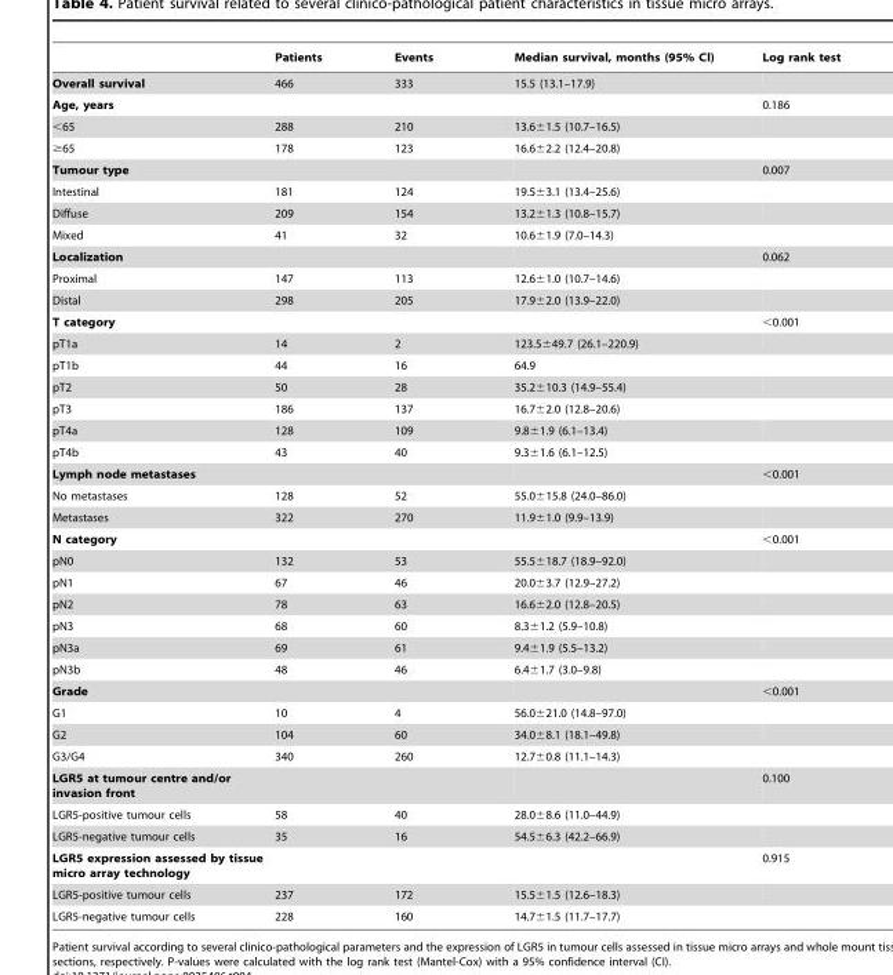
<table><thead><tr><td></td><td>Patients</td><td>Events</td><td>Median survival, months (95% Cl)</td><td>Log rank test</td></tr></thead><tbody><tr><td>Overall survival</td><td>466</td><td>333</td><td>15.5 (13.1–17.9)</td><td></td></tr><tr><td>Age, years</td><td></td><td></td><td></td><td>0.186</td></tr><tr><td>&lt;65</td><td>288</td><td>210</td><td>13.6±1.5 (10.7–16.5)</td><td></td></tr><tr><td>≥65</td><td>178</td><td>123</td><td>16.6±2.2 (12.4–20.8)</td><td></td></tr><tr><td>Tumour type</td><td></td><td></td><td></td><td>0.007</td></tr><tr><td>Intestinal</td><td>181</td><td>124</td><td>19.5±3.1 (13.4–25.6)</td><td></td></tr><tr><td>Diffuse</td><td>209</td><td>154</td><td>13.2±1.3 (10.8–15.7)</td><td></td></tr><tr><td>Mixed</td><td>41</td><td>32</td><td>10.6±1.9 (7.0–14.3)</td><td></td></tr><tr><td>Localization</td><td></td><td></td><td></td><td>0.062</td></tr><tr><td>Proximal</td><td>147</td><td>113</td><td>12.6±1.0 (10.7–14.6)</td><td></td></tr><tr><td>Distal</td><td>298</td><td>205</td><td>17.9±2.0 (13.9–22.0)</td><td></td></tr><tr><td>T category</td><td></td><td></td><td></td><td>&lt;0.001</td></tr><tr><td>pT1a</td><td>14</td><td>2</td><td>123.5±49.7 (26.1–220.9)</td><td></td></tr><tr><td>pT1b</td><td>44</td><td>16</td><td>64.9</td><td></td></tr><tr><td>pT2</td><td>50</td><td>28</td><td>35.2±10.3 (14.9–55.4)</td><td></td></tr><tr><td>pT3</td><td>186</td><td>137</td><td>16.7±2.0 (12.8–20.6)</td><td></td></tr><tr><td>pT4a</td><td>128</td><td>109</td><td>9.8±1.9 (6.1–13.4)</td><td></td></tr><tr><td>pT4b</td><td>43</td><td>40</td><td>9.3±1.6 (6.1–12.5)</td><td></td></tr><tr><td>Lymph node metastases</td><td></td><td></td><td></td><td>&lt;0.001</td></tr><tr><td>No metastases</td><td>128</td><td>52</td><td>55.0±15.8 (24.0–86.0)</td><td></td></tr><tr><td>Metastases</td><td>322</td><td>270</td><td>11.9±1.0 (9.9–13.9)</td><td></td></tr><tr><td>N category</td><td></td><td></td><td></td><td>&lt;0.001</td></tr><tr><td>pN0</td><td>132</td><td>53</td><td>55.5±18.7 (18.9–92.0)</td><td></td></tr><tr><td>pN1</td><td>67</td><td>46</td><td>20.0±3.7 (12.9–27.2)</td><td></td></tr><tr><td>pN2</td><td>78</td><td>63</td><td>16.6±2.0 (12.8–20.5)</td><td></td></tr><tr><td>pN3</td><td>68</td><td>60</td><td>8.3±1.2 (5.9–10.8)</td><td></td></tr><tr><td>pN3a</td><td>69</td><td>61</td><td>9.4±1.9 (5.5–13.2)</td><td></td></tr><tr><td>pN3b</td><td>48</td><td>46</td><td>6.4±1.7 (3.0–9.8)</td><td></td></tr><tr><td>Grade</td><td></td><td></td><td></td><td>&lt;0.001</td></tr><tr><td>G1</td><td>10</td><td>4</td><td>56.0±21.0 (14.8–97.0)</td><td></td></tr><tr><td>G2</td><td>104</td><td>60</td><td>34.0±8.1 (18.1–49.8)</td><td></td></tr><tr><td>G3/G4</td><td>340</td><td>260</td><td>12.7±0.8 (11.1–14.3)</td><td></td></tr><tr><td>LGR5 at tumour centre and/or invasion front</td><td></td><td></td><td></td><td>0.100</td></tr><tr><td>LGR5-positive tumour cells</td><td>58</td><td>40</td><td>28.0±8.6 (11.0–44.9)</td><td></td></tr><tr><td>LGR5-negative tumour cells</td><td>35</td><td>16</td><td>54.5±6.3 (42.2–66.9)</td><td></td></tr><tr><td>LGR5 expression assessed by tissue micro array technology</td><td></td><td></td><td></td><td>0.915</td></tr><tr><td>LGR5-positive tumour cells</td><td>237</td><td>172</td><td>15.5±1.5 (12.6–18.3)</td><td></td></tr><tr><td>LGR5-negative tumour cells</td><td>228</td><td>160</td><td>14.7±1.5 (11.7–17.7)</td><td></td></tr></tbody></table>